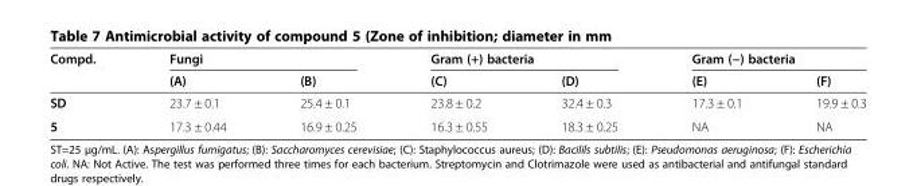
<table><thead><tr><td rowspan="2">Compd.</td><td colspan="2">Fungi</td><td colspan="2">Gram (+) bacteria</td><td colspan="2">Gram (−) bacteria</td></tr><tr><td>(A)</td><td>(B)</td><td>(C)</td><td>(D)</td><td>(E)</td><td>(F)</td></tr></thead><tbody><tr><td>SD</td><td>23.7 ± 0.1</td><td>25.4 ± 0.1</td><td>23.8 ± 0.2</td><td>32.4 ± 0.3</td><td>17.3 ± 0.1</td><td>19.9 ± 0.3</td></tr><tr><td>5</td><td>17.3 ± 0.44</td><td>16.9 ± 0.25</td><td>16.3 ± 0.55</td><td>18.3 ± 0.25</td><td>NA</td><td>NA</td></tr></tbody></table>